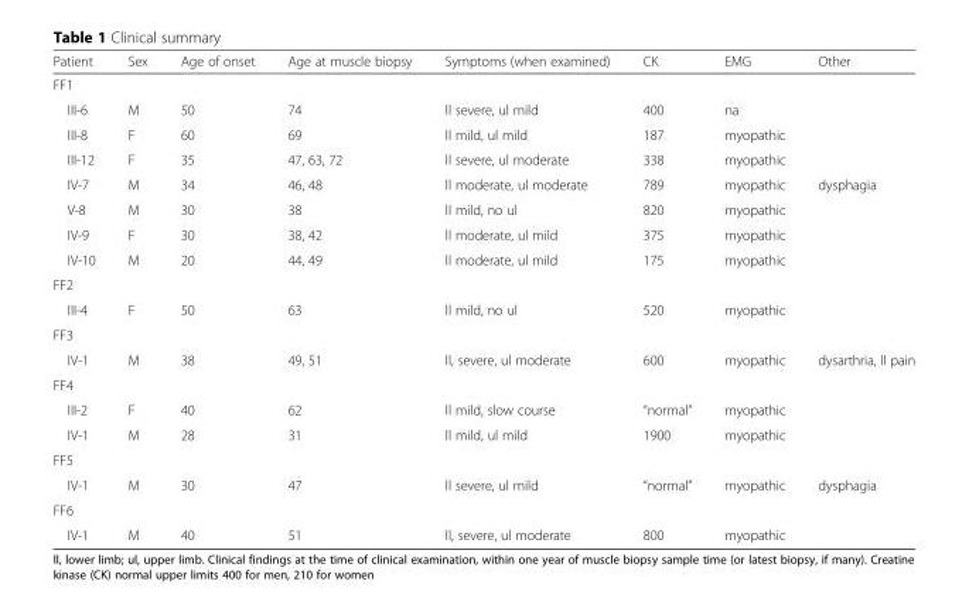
<table><thead><tr><td>Patient</td><td>Sex</td><td>Age of onset</td><td>Age at muscle biopsy</td><td>Symptoms (when examined)</td><td>CK</td><td>EMG</td><td>Other</td></tr></thead><tbody><tr><td colspan="8">FF1</td></tr><tr><td>III-6</td><td>M</td><td>50</td><td>74</td><td>ll severe, ul mild</td><td>400</td><td>na</td><td></td></tr><tr><td>III-8</td><td>F</td><td>60</td><td>69</td><td>ll mild, ul mild</td><td>187</td><td>myopathic</td><td></td></tr><tr><td>III-12</td><td>F</td><td>35</td><td>47, 63, 72</td><td>ll severe, ul moderate</td><td>338</td><td>myopathic</td><td></td></tr><tr><td>IV-7</td><td>M</td><td>34</td><td>46, 48</td><td>ll moderate, ul moderate</td><td>789</td><td>myopathic</td><td>dysphagia</td></tr><tr><td>V-8</td><td>M</td><td>30</td><td>38</td><td>ll mild, no ul</td><td>820</td><td>myopathic</td><td></td></tr><tr><td>IV-9</td><td>F</td><td>30</td><td>38, 42</td><td>ll moderate, ul mild</td><td>375</td><td>myopathic</td><td></td></tr><tr><td>IV-10</td><td>M</td><td>20</td><td>44, 49</td><td>ll moderate, ul mild</td><td>175</td><td>myopathic</td><td></td></tr><tr><td colspan="8">FF2</td></tr><tr><td>III-4</td><td>F</td><td>50</td><td>63</td><td>ll mild, no ul</td><td>520</td><td>myopathic</td><td></td></tr><tr><td colspan="8">FF3</td></tr><tr><td>IV-1</td><td>M</td><td>38</td><td>49, 51</td><td>ll, severe, ul moderate</td><td>600</td><td>myopathic</td><td>dysarthria, ll pain</td></tr><tr><td colspan="8">FF4</td></tr><tr><td>III-2</td><td>F</td><td>40</td><td>62</td><td>ll mild, slow course</td><td>“normal”</td><td>myopathic</td><td></td></tr><tr><td>IV-1</td><td>M</td><td>28</td><td>31</td><td>ll mild, ul mild</td><td>1900</td><td>myopathic</td><td></td></tr><tr><td colspan="8">FF5</td></tr><tr><td>IV-1</td><td>M</td><td>30</td><td>47</td><td>ll severe, ul mild</td><td>“normal”</td><td>myopathic</td><td>dysphagia</td></tr><tr><td colspan="8">FF6</td></tr><tr><td>IV-1</td><td>M</td><td>40</td><td>51</td><td>ll, severe, ul moderate</td><td>800</td><td>myopathic</td><td></td></tr></tbody></table>